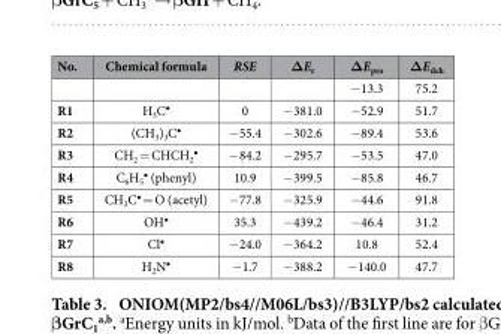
<table><thead><tr><td>No.</td><td>Chemical formula</td><td>RSE</td><td>ΔE<sub>r</sub></td><td>ΔE<sub>pro</sub></td><td>ΔE<sub>deh</sub></td></tr></thead><tbody><tr><td></td><td></td><td></td><td></td><td>− 13.3</td><td>75.2</td></tr><tr><td>R1</td><td>H<sub>3</sub>C<sup>•</sup></td><td>0</td><td>− 381.0</td><td>− 52.9</td><td>51.7</td></tr><tr><td>R2</td><td>(CH<sub>3</sub>)<sub>3</sub>C<sup>•</sup></td><td>− 55.4</td><td>− 302.6</td><td>− 89.4</td><td>53.6</td></tr><tr><td>R3</td><td>CH<sub>2</sub> = CHCH<sub>2</sub> <sup>•</sup></td><td>− 84.2</td><td>− 295.7</td><td>− 53.5</td><td>47.0</td></tr><tr><td>R4</td><td>C<sub>6</sub>H<sub>5</sub> <sup>•</sup> (phenyl)</td><td>10.9</td><td>− 399.5</td><td>− 85.8</td><td>46.7</td></tr><tr><td>R5</td><td>CH<sub>3</sub>C<sup>•</sup> = O (acetyl)</td><td>− 77.8</td><td>− 325.9</td><td>− 44.6</td><td>91.8</td></tr><tr><td>R6</td><td>OH<sup>•</sup></td><td>35.3</td><td>− 439.2</td><td>− 46.4</td><td>31.2</td></tr><tr><td>R7</td><td>Cl<sup>•</sup></td><td>− 24.0</td><td>− 364.2</td><td>10.8</td><td>52.4</td></tr><tr><td>R8</td><td>H<sub>2</sub>N<sup>•</sup></td><td>− 1.7</td><td>− 388.2</td><td>− 140.0</td><td>47.7</td></tr></tbody></table>